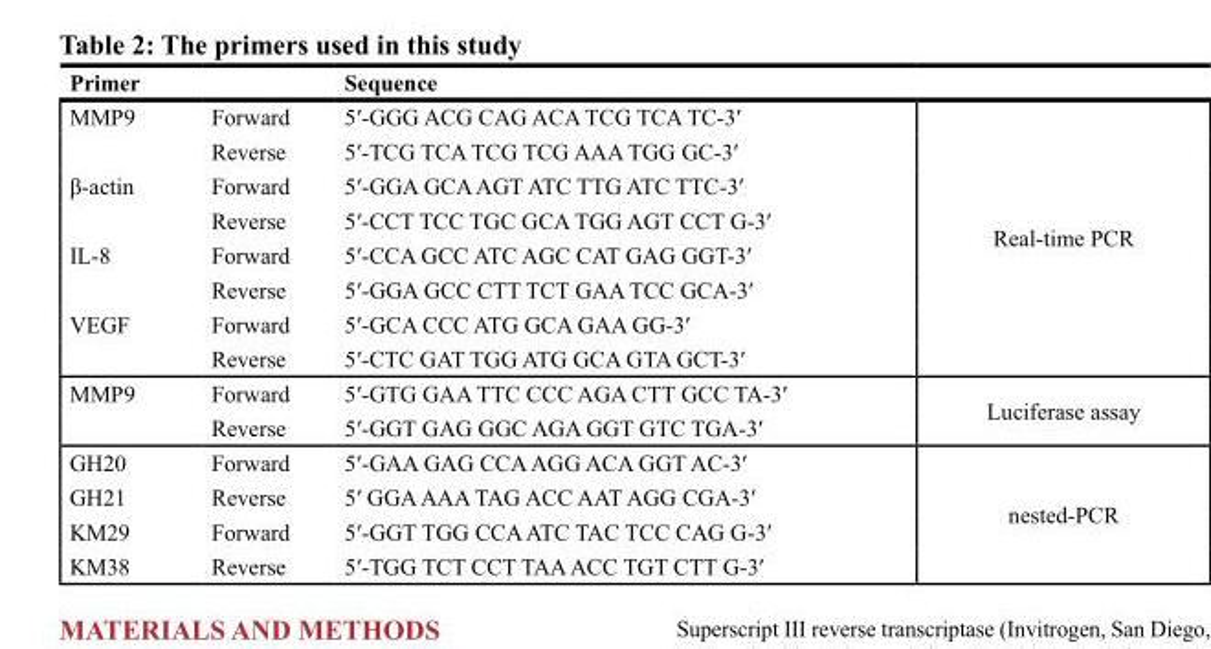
<table><thead><tr><td>Primer</td><td></td><td>Sequence</td><td></td></tr></thead><tbody><tr><td rowspan="2">MMP9</td><td>Forward</td><td>5ʹ-GGG ACG CAG ACA TCG TCA TC-3ʹ</td><td rowspan="8">Real-time PCR</td></tr><tr><td>Reverse</td><td>5ʹ-TCG TCA TCG TCG AAA TGG GC-3ʹ</td></tr><tr><td rowspan="2">β-actin</td><td>Forward</td><td>5ʹ-GGA GCA AGT ATC TTG ATC TTC-3ʹ</td></tr><tr><td>Reverse</td><td>5ʹ-CCT TCC TGC GCA TGG AGT CCT G-3ʹ</td></tr><tr><td rowspan="2">IL-8</td><td>Forward</td><td>5ʹ-CCA GCC ATC AGC CAT GAG GGT-3ʹ</td></tr><tr><td>Reverse</td><td>5ʹ-GGA GCC CTT TCT GAA TCC GCA-3ʹ</td></tr><tr><td rowspan="2">VEGF</td><td>Forward</td><td>5ʹ-GCA CCC ATG GCA GAA GG-3ʹ</td></tr><tr><td>Reverse</td><td>5ʹ-CTC GAT TGG ATG GCA GTA GCT-3ʹ</td></tr><tr><td rowspan="2">MMP9</td><td>Forward</td><td>5ʹ-GTG GAA TTC CCC AGA CTT GCC TA-3ʹ</td><td rowspan="2">Luciferase assay</td></tr><tr><td>Reverse</td><td>5ʹ-GGT GAG GGC AGA GGT GTC TGA-3ʹ</td></tr><tr><td>GH20</td><td>Forward</td><td>5ʹ-GAA GAG CCA AGG ACA GGT AC-3ʹ</td><td rowspan="4">nested-PCR</td></tr><tr><td>GH21</td><td>Reverse</td><td>5ʹ GGA AAA TAG ACC AAT AGG CGA-3ʹ</td></tr><tr><td>KM29</td><td>Forward</td><td>5ʹ-GGT TGG CCA ATC TAC TCC CAG G-3ʹ</td></tr><tr><td>KM38</td><td>Reverse</td><td>5ʹ-TGG TCT CCT TAA ACC TGT CTT G-3ʹ</td></tr></tbody></table>